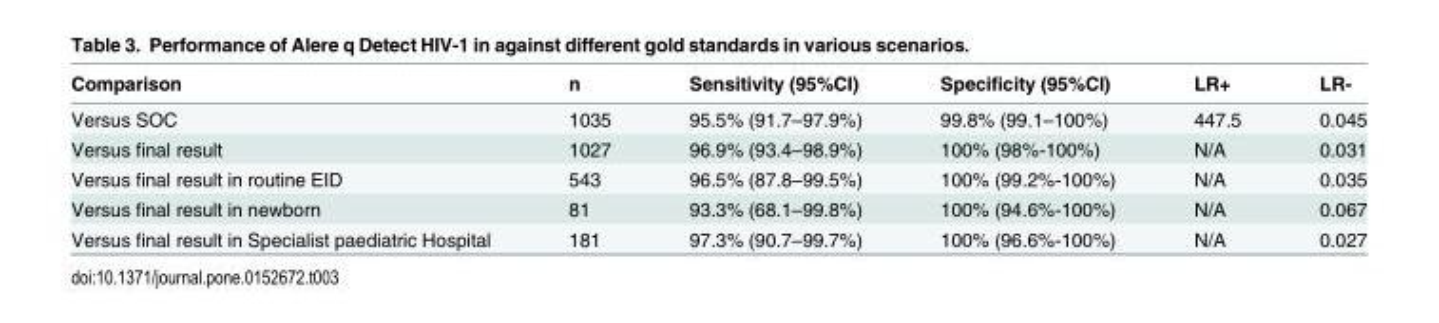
<table><thead><tr><td>Comparison</td><td>n</td><td>Sensitivity (95%CI)</td><td>Specificity (95%CI)</td><td>LR+</td><td>LR-</td></tr></thead><tbody><tr><td>Versus SOC</td><td>1035</td><td>95.5% (91.7–97.9%)</td><td>99.8% (99.1–100%)</td><td>447.5</td><td>0.045</td></tr><tr><td>Versus final result</td><td>1027</td><td>96.9% (93.4–98.9%)</td><td>100% (98%-100%)</td><td>N/A</td><td>0.031</td></tr><tr><td>Versus final result in routine EID</td><td>543</td><td>96.5% (87.8–99.5%)</td><td>100% (99.2%-100%)</td><td>N/A</td><td>0.035</td></tr><tr><td>Versus final result in newborn</td><td>81</td><td>93.3% (68.1–99.8%)</td><td>100% (94.6%-100%)</td><td>N/A</td><td>0.067</td></tr><tr><td>Versus final result in Specialist paediatric Hospital</td><td>181</td><td>97.3% (90.7–99.7%)</td><td>100% (96.6%-100%)</td><td>N/A</td><td>0.027</td></tr></tbody></table>